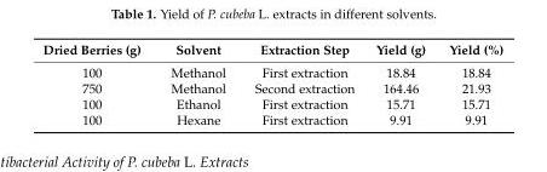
<table><thead><tr><td>Dried Berries (g)</td><td>Solvent</td><td>Extraction Step</td><td>Yield (g)</td><td>Yield (%)</td></tr></thead><tbody><tr><td>100</td><td>Methanol</td><td>First extraction</td><td>18.84</td><td>18.84</td></tr><tr><td>750</td><td>Methanol</td><td>Second extraction</td><td>164.46</td><td>21.93</td></tr><tr><td>100</td><td>Ethanol</td><td>First extraction</td><td>15.71</td><td>15.71</td></tr><tr><td>100</td><td>Hexane</td><td>First extraction</td><td>9.91</td><td>9.91</td></tr></tbody></table>